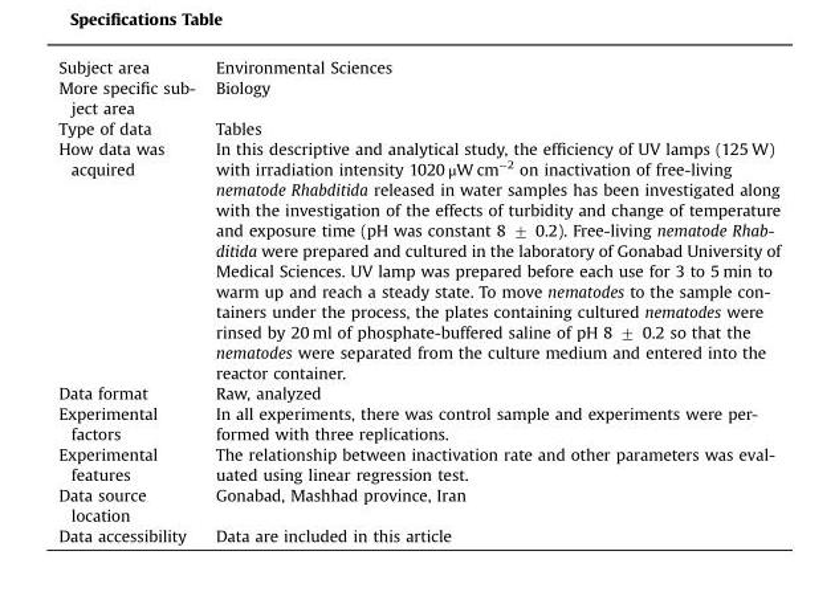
<table><tbody><tr><td>Subject area</td><td>Environmental Sciences</td></tr><tr><td>More specific sub- ject area</td><td>Biology</td></tr><tr><td>Type of data</td><td>Tables</td></tr><tr><td>How data was acquired</td><td>In this descriptive and analytical study, the efficiency of UV lamps (125 W) with irradiation intensity 1020 μW cm−2 on inactivation of free-living nematode Rhabditida released in water samples has been investigated along with the investigation of the effects of turbidity and change of temperature and exposure time (pH was constant 8 7 0.2). Free-living nematode Rhab- ditida were prepared and cultured in the laboratory of Gonabad University of Medical Sciences. UV lamp was prepared before each use for 3 to 5 min to warm up and reach a steady state. To move nematodes to the sample con- tainers under the process, the plates containing cultured nematodes were rinsed by 20 ml of phosphate-buffered saline of pH 8 7 0.2 so that the nematodes were separated from the culture medium and entered into the reactor container.</td></tr><tr><td>Data format</td><td>Raw, analyzed</td></tr><tr><td>Experimental factors</td><td>In all experiments, there was control sample and experiments were per- formed with three replications.</td></tr><tr><td>Experimental features</td><td>The relationship between inactivation rate and other parameters was eval- uated using linear regression test.</td></tr><tr><td>Data source location</td><td>Gonabad, Mashhad province, Iran</td></tr><tr><td>Data accessibility</td><td>Data are included in this article</td></tr></tbody></table>